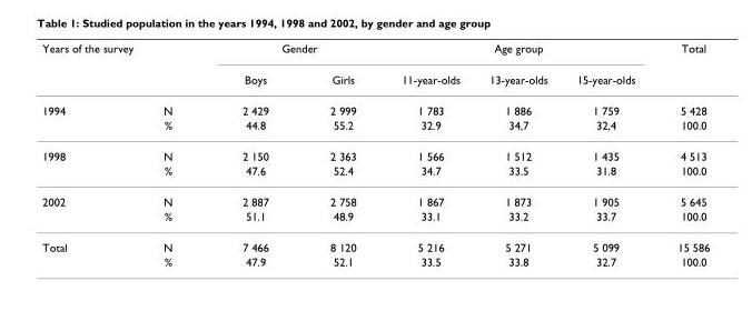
<table><thead><tr><td colspan="2">Years of the survey</td><td colspan="2">Gender</td><td colspan="3">Age group</td><td rowspan="2">Total</td></tr><tr><td></td><td></td><td>Boys</td><td>Girls</td><td>11-year-olds</td><td>13-year-olds</td><td>15-year-olds</td></tr></thead><tbody><tr><td rowspan="2">1994</td><td>N</td><td>2 429</td><td>2 999</td><td>1 783</td><td>1 886</td><td>1 759</td><td>5 428</td></tr><tr><td>%</td><td>44.8</td><td>55.2</td><td>32.9</td><td>34,7</td><td>32,4</td><td>100.0</td></tr><tr><td rowspan="2">1998</td><td>N</td><td>2 150</td><td>2 363</td><td>1 566</td><td>1 512</td><td>1 435</td><td>4 513</td></tr><tr><td>%</td><td>47.6</td><td>52.4</td><td>34.7</td><td>33.5</td><td>31.8</td><td>100.0</td></tr><tr><td rowspan="2">2002</td><td>N</td><td>2 887</td><td>2 758</td><td>1 867</td><td>1 873</td><td>1 905</td><td>5 645</td></tr><tr><td>%</td><td>51.1</td><td>48.9</td><td>33.1</td><td>33.2</td><td>33.7</td><td>100.0</td></tr><tr><td rowspan="2">Total</td><td>N</td><td>7 466</td><td>8 120</td><td>5 216</td><td>5 271</td><td>5 099</td><td>15 586</td></tr><tr><td>%</td><td>47.9</td><td>52.1</td><td>33.5</td><td>33.8</td><td>32.7</td><td>100.0</td></tr></tbody></table>